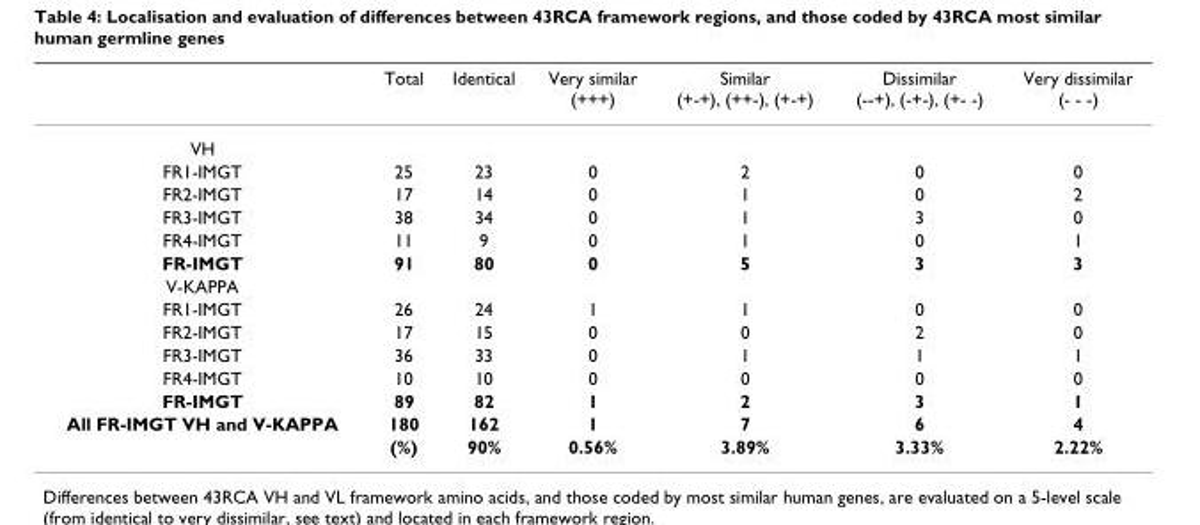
<table><thead><tr><td></td><td>Total</td><td>Identical</td><td>Very similar (+++)</td><td>Similar (+-+), (++-), (+-+)</td><td>Dissimilar (--+), (-+-), (+- -)</td><td>Very dissimilar (- - -)</td></tr></thead><tbody><tr><td colspan="7">VH</td></tr><tr><td>FR1-IMGT</td><td>25</td><td>23</td><td>0</td><td>2</td><td>0</td><td>0</td></tr><tr><td>FR2-IMGT</td><td>17</td><td>14</td><td>0</td><td>1</td><td>0</td><td>2</td></tr><tr><td>FR3-IMGT</td><td>38</td><td>34</td><td>0</td><td>1</td><td>3</td><td>0</td></tr><tr><td>FR4-IMGT</td><td>11</td><td>9</td><td>0</td><td>1</td><td>0</td><td>1</td></tr><tr><td>FR-IMGT</td><td>91</td><td>80</td><td>0</td><td>5</td><td>3</td><td>3</td></tr><tr><td colspan="7">V-KAPPA</td></tr><tr><td>FR1-IMGT</td><td>26</td><td>24</td><td>1</td><td>1</td><td>0</td><td>0</td></tr><tr><td>FR2-IMGT</td><td>17</td><td>15</td><td>0</td><td>0</td><td>2</td><td>0</td></tr><tr><td>FR3-IMGT</td><td>36</td><td>33</td><td>0</td><td>1</td><td>1</td><td>1</td></tr><tr><td>FR4-IMGT</td><td>10</td><td>10</td><td>0</td><td>0</td><td>0</td><td>0</td></tr><tr><td>FR-IMGT</td><td>89</td><td>82</td><td>1</td><td>2</td><td>3</td><td>1</td></tr><tr><td rowspan="2">All FR-IMGT VH and V-KAPPA</td><td>180</td><td>162</td><td>1</td><td>7</td><td>6</td><td>4</td></tr><tr><td>(%)</td><td>90%</td><td>0.56%</td><td>3.89%</td><td>3.33%</td><td>2.22%</td></tr></tbody></table>